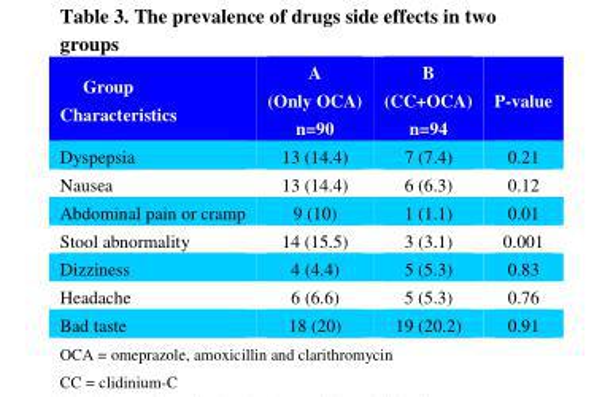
<table><thead><tr><td>Group Characteristics</td><td>A (Only OCA) n=90</td><td>B (CC+OCA) n=94</td><td>P-value</td></tr></thead><tbody><tr><td>Dyspepsia</td><td>13 (14.4)</td><td>7 (7.4)</td><td>0.21</td></tr><tr><td>Nausea</td><td>13 (14.4)</td><td>6 (6.3)</td><td>0.12</td></tr><tr><td>Abdominal pain or cramp</td><td>9 (10)</td><td>1 (1.1)</td><td>0.01</td></tr><tr><td>Stool abnormality</td><td>14 (15.5)</td><td>3 (3.1)</td><td>0.001</td></tr><tr><td>Dizziness</td><td>4 (4.4)</td><td>5 (5.3)</td><td>0.83</td></tr><tr><td>Headache</td><td>6 (6.6)</td><td>5 (5.3)</td><td>0.76</td></tr><tr><td>Bad taste</td><td>18 (20)</td><td>19 (20.2)</td><td>0.91</td></tr></tbody></table>